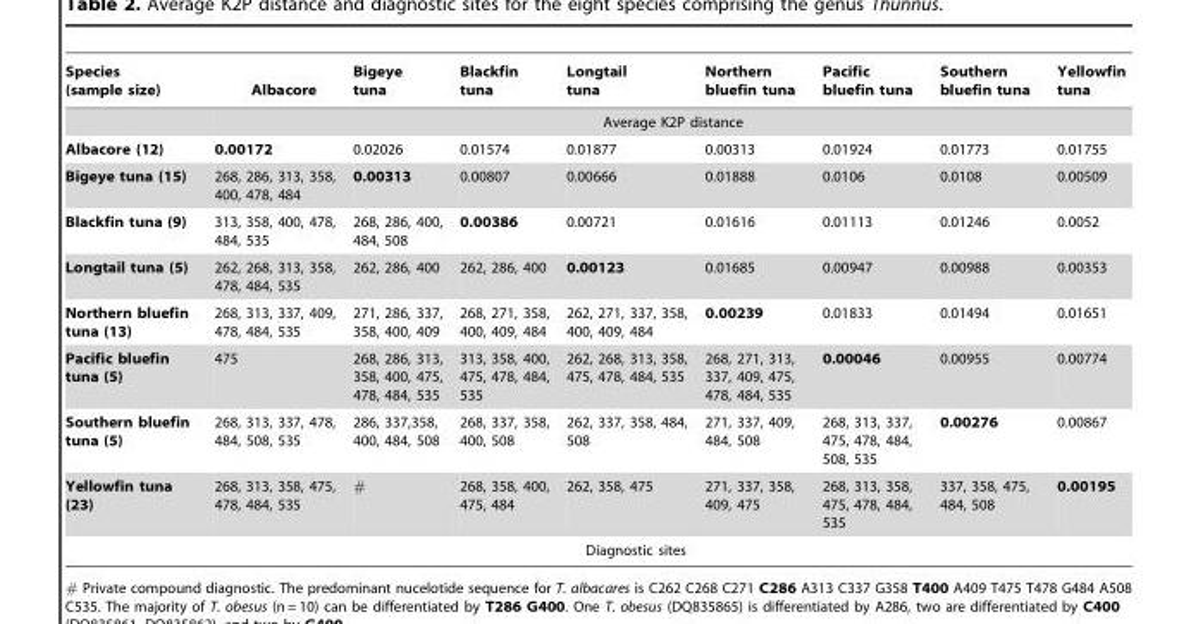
<table><thead><tr><td>Species (sample size)</td><td>Albacore</td><td>Bigeye tuna</td><td>Blackfin tuna</td><td>Longtail tuna</td><td>Northern bluefin tuna</td><td>Pacific bluefin tuna</td><td>Southern bluefin tuna</td><td>Yellowfin tuna</td></tr></thead><tbody><tr><td></td><td colspan="8">Average K2P distance</td></tr><tr><td>Albacore (12)</td><td>0.00172</td><td>0.02026</td><td>0.01574</td><td>0.01877</td><td>0.00313</td><td>0.01924</td><td>0.01773</td><td>0.01755</td></tr><tr><td>Bigeye tuna (15)</td><td>268, 286, 313, 358, 400, 478, 484</td><td>0.00313</td><td>0.00807</td><td>0.00666</td><td>0.01888</td><td>0.0106</td><td>0.0108</td><td>0.00509</td></tr><tr><td>Blackfin tuna (9)</td><td>313, 358, 400, 478, 484, 535</td><td>268, 286, 400, 484, 508</td><td>0.00386</td><td>0.00721</td><td>0.01616</td><td>0.01113</td><td>0.01246</td><td>0.0052</td></tr><tr><td>Longtail tuna (5)</td><td>262, 268, 313, 358, 478, 484, 535</td><td>262, 286, 400</td><td>262, 286, 400</td><td>0.00123</td><td>0.01685</td><td>0.00947</td><td>0.00988</td><td>0.00353</td></tr><tr><td>Northern bluefin tuna (13)</td><td>268, 313, 337, 409, 478, 484, 535</td><td>271, 286, 337, 358, 400, 409</td><td>268, 271, 358, 400, 409, 484</td><td>262, 271, 337, 358, 400, 409, 484</td><td>0.00239</td><td>0.01833</td><td>0.01494</td><td>0.01651</td></tr><tr><td>Pacific bluefin tuna (5)</td><td>475</td><td>268, 286, 313, 358, 400, 475, 478, 484, 535</td><td>313, 358, 400, 475, 478, 484, 535</td><td>262, 268, 313, 358, 475, 478, 484, 535</td><td>268, 271, 313, 337, 409, 475, 478, 484, 535</td><td>0.00046</td><td>0.00955</td><td>0.00774</td></tr><tr><td>Southern bluefin tuna (5)</td><td>268, 313, 337, 478, 484, 508, 535</td><td>286, 337,358, 400, 484, 508</td><td>268, 337, 358, 400, 508</td><td>262, 337, 358, 484, 508</td><td>271, 337, 409, 484, 508</td><td>268, 313, 337, 475, 478, 484, 508, 535</td><td>0.00276</td><td>0.00867</td></tr><tr><td rowspan="2">Yellowfin tuna (23)</td><td>268, 313, 358, 475, 478, 484, 535</td><td>#</td><td>268, 358, 400, 475, 484</td><td>262, 358, 475</td><td>271, 337, 358, 409, 475</td><td>268, 313, 358, 475, 478, 484, 535</td><td>337, 358, 475, 484, 508</td><td>0.00195</td></tr><tr><td colspan="7">Diagnostic sites</td><td></td></tr></tbody></table>